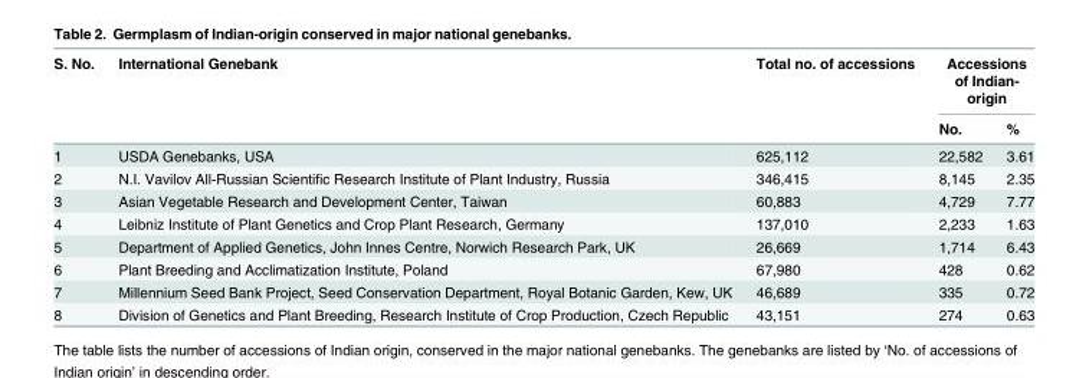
<table><thead><tr><td rowspan="2">S. No.</td><td rowspan="2">International Genebank</td><td rowspan="2">Total no. of accessions</td><td colspan="2">Accessions of Indian- origin</td></tr><tr><td>No.</td><td>%</td></tr></thead><tbody><tr><td>1</td><td>USDA Genebanks, USA</td><td>625,112</td><td>22,582</td><td>3.61</td></tr><tr><td>2</td><td>N.I. Vavilov All-Russian Scientific Research Institute of Plant Industry, Russia</td><td>346,415</td><td>8,145</td><td>2.35</td></tr><tr><td>3</td><td>Asian Vegetable Research and Development Center, Taiwan</td><td>60,883</td><td>4,729</td><td>7.77</td></tr><tr><td>4</td><td>Leibniz Institute of Plant Genetics and Crop Plant Research, Germany</td><td>137,010</td><td>2,233</td><td>1.63</td></tr><tr><td>5</td><td>Department of Applied Genetics, John Innes Centre, Norwich Research Park, UK</td><td>26,669</td><td>1,714</td><td>6.43</td></tr><tr><td>6</td><td>Plant Breeding and Acclimatization Institute, Poland</td><td>67,980</td><td>428</td><td>0.62</td></tr><tr><td>7</td><td>Millennium Seed Bank Project, Seed Conservation Department, Royal Botanic Garden, Kew, UK</td><td>46,689</td><td>335</td><td>0.72</td></tr><tr><td>8</td><td>Division of Genetics and Plant Breeding, Research Institute of Crop Production, Czech Republic</td><td>43,151</td><td>274</td><td>0.63</td></tr></tbody></table>